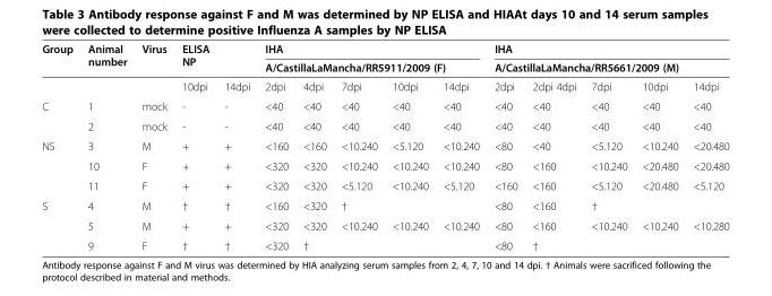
<table><thead><tr><td rowspan="3">Group</td><td rowspan="3">Animal number</td><td rowspan="3">Virus</td><td rowspan="3">ELISA NP 10dpi</td><td rowspan="3">14dpi</td><td rowspan="2" colspan="5">IHA A/CastillaLaMancha/RR5911/2009 (F)</td><td rowspan="2" colspan="5">IHA A/CastillaLaMancha/RR5661/2009 (M)</td></tr><tr></tr><tr><td>2dpi</td><td>4dpi</td><td>7dpi</td><td>10dpi</td><td>14dpi</td><td>2dpi</td><td>2dpi 4dpi</td><td>7dpi</td><td>10dpi</td><td>14dpi</td></tr></thead><tbody><tr><td rowspan="2">C</td><td>1</td><td>mock</td><td>-</td><td>-</td><td>&lt;40</td><td>&lt;40</td><td>&lt;40</td><td>&lt;40</td><td>&lt;40</td><td>&lt;40</td><td>&lt;40</td><td>&lt;40</td><td>&lt;40</td><td>&lt;40</td></tr><tr><td>2</td><td>mock</td><td>-</td><td>-</td><td>&lt;40</td><td>&lt;40</td><td>&lt;40</td><td>&lt;40</td><td>&lt;40</td><td>&lt;40</td><td>&lt;40</td><td>&lt;40</td><td>&lt;40</td><td>&lt;40</td></tr><tr><td rowspan="3">NS</td><td>3</td><td>M</td><td>+</td><td>+</td><td>&lt;160</td><td>&lt;160</td><td>&lt;10.240</td><td>&lt;5.120</td><td>&lt;10.240</td><td>&lt;80</td><td>&lt;40</td><td>&lt;5.120</td><td>&lt;10.240</td><td>&lt;20.480</td></tr><tr><td>10</td><td>F</td><td>+</td><td>+</td><td>&lt;320</td><td>&lt;320</td><td>&lt;10.240</td><td>&lt;10.240</td><td>&lt;10.240</td><td>&lt;80</td><td>&lt;160</td><td>&lt;10.240</td><td>&lt;20.480</td><td>&lt;20.480</td></tr><tr><td>11</td><td>F</td><td>+</td><td>+</td><td>&lt;320</td><td>&lt;320</td><td>&lt;5.120</td><td>&lt;10.240</td><td>&lt;5.120</td><td>&lt;160</td><td>&lt;160</td><td>&lt;5.120</td><td>&lt;20.480</td><td>&lt;5.120</td></tr><tr><td rowspan="3">S</td><td>4</td><td>M</td><td>†</td><td>†</td><td>&lt;160</td><td>&lt;320</td><td>†</td><td></td><td></td><td>&lt;80</td><td>&lt;160</td><td>†</td><td></td><td></td></tr><tr><td>5</td><td>M</td><td>+</td><td>+</td><td>&lt;320</td><td>&lt;320</td><td>&lt;10.240</td><td>&lt;10.240</td><td>&lt;10.240</td><td>&lt;80</td><td>&lt;160</td><td>&lt;10.240</td><td>&lt;10.240</td><td>&lt;10.280</td></tr><tr><td>9</td><td>F</td><td>†</td><td>†</td><td>&lt;320</td><td>†</td><td></td><td></td><td></td><td>&lt;80</td><td>†</td><td></td><td></td><td></td></tr></tbody></table>